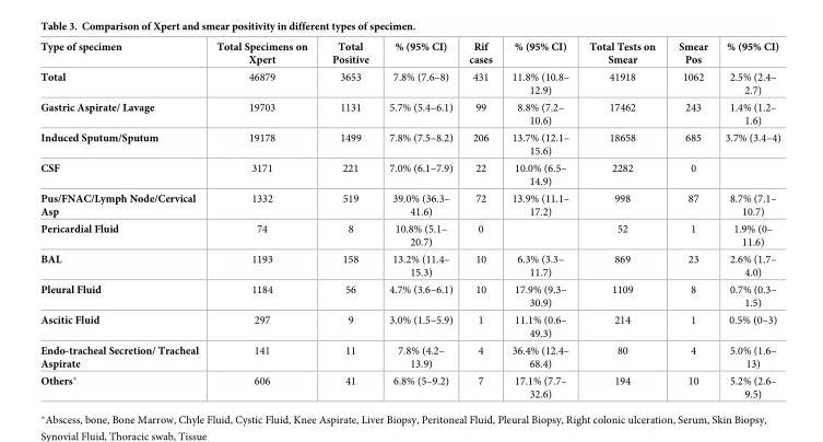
<table><thead><tr><td>Type of specimen</td><td>Total Specimens on Xpert</td><td>Total Positive</td><td>% (95% CI)</td><td>Rif cases</td><td>% (95% CI)</td><td>Total Tests on Smear</td><td>Smear Pos</td><td>% (95% CI)</td></tr></thead><tbody><tr><td>Total</td><td>46879</td><td>3653</td><td>7.8% (7.6–8)</td><td>431</td><td>11.8% (10.8– 12.9)</td><td>41918</td><td>1062</td><td>2.5% (2.4– 2.7)</td></tr><tr><td>Gastric Aspirate/ Lavage</td><td>19703</td><td>1131</td><td>5.7% (5.4–6.1)</td><td>99</td><td>8.8% (7.2– 10.6)</td><td>17462</td><td>243</td><td>1.4% (1.2– 1.6)</td></tr><tr><td>Induced Sputum/Sputum</td><td>19178</td><td>1499</td><td>7.8% (7.5–8.2)</td><td>206</td><td>13.7% (12.1– 15.6)</td><td>18658</td><td>685</td><td>3.7% (3.4–4)</td></tr><tr><td>CSF</td><td>3171</td><td>221</td><td>7.0% (6.1–7.9)</td><td>22</td><td>10.0% (6.5– 14.9)</td><td>2282</td><td>0</td><td></td></tr><tr><td>Pus/FNAC/Lymph Node/Cervical Asp</td><td>1332</td><td>519</td><td>39.0% (36.3– 41.6)</td><td>72</td><td>13.9% (11.1– 17.2)</td><td>998</td><td>87</td><td>8.7% (7.1– 10.7)</td></tr><tr><td>Pericardial Fluid</td><td>74</td><td>8</td><td>10.8% (5.1– 20.7)</td><td>0</td><td></td><td>52</td><td>1</td><td>1.9% (0– 11.6)</td></tr><tr><td>BAL</td><td>1193</td><td>158</td><td>13.2% (11.4– 15.3)</td><td>10</td><td>6.3% (3.3– 11.7)</td><td>869</td><td>23</td><td>2.6% (1.7– 4.0)</td></tr><tr><td>Pleural Fluid</td><td>1184</td><td>56</td><td>4.7% (3.6–6.1)</td><td>10</td><td>17.9% (9.3– 30.9)</td><td>1109</td><td>8</td><td>0.7% (0.3– 1.5)</td></tr><tr><td>Ascitic Fluid</td><td>297</td><td>9</td><td>3.0% (1.5–5.9)</td><td>1</td><td>11.1% (0.6– 49.3)</td><td>214</td><td>1</td><td>0.5% (0–3)</td></tr><tr><td>Endo-tracheal Secretion/ Tracheal Aspirate</td><td>141</td><td>11</td><td>7.8% (4.2– 13.9)</td><td>4</td><td>36.4% (12.4– 68.4)</td><td>80</td><td>4</td><td>5.0% (1.6– 13)</td></tr><tr><td>Others*</td><td>606</td><td>41</td><td>6.8% (5–9.2)</td><td>7</td><td>17.1% (7.7– 32.6)</td><td>194</td><td>10</td><td>5.2% (2.6– 9.5)</td></tr></tbody></table>